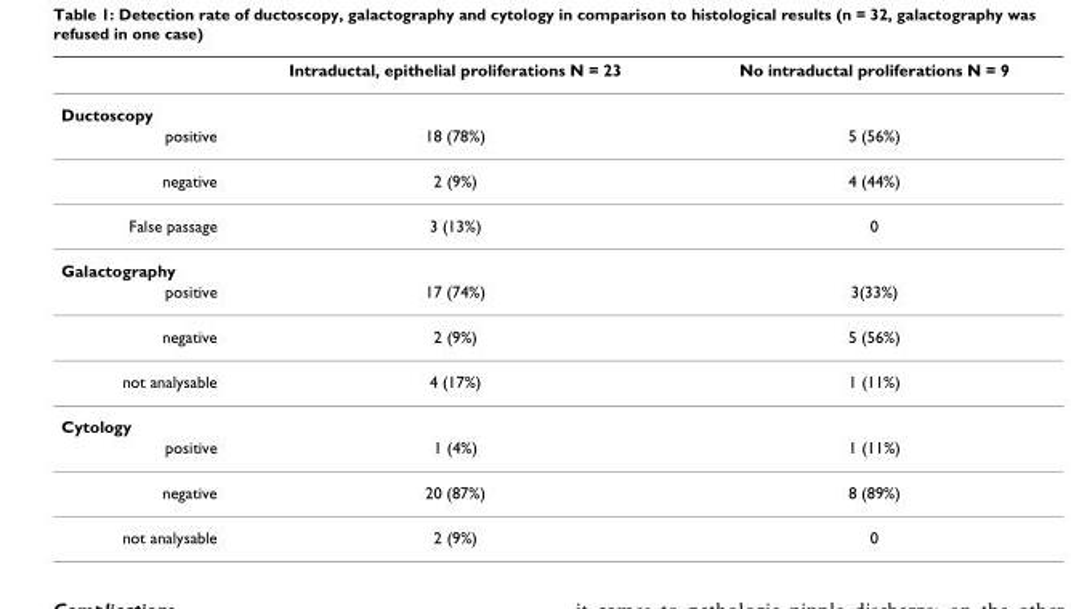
<table><thead><tr><td></td><td>Intraductal, epithelial proliferations N = 23</td><td>No intraductal proliferations N = 9</td></tr></thead><tbody><tr><td colspan="3">Ductoscopy</td></tr><tr><td>positive</td><td>18 (78%)</td><td>5 (56%)</td></tr><tr><td>negative</td><td>2 (9%)</td><td>4 (44%)</td></tr><tr><td>False passage</td><td>3 (13%)</td><td>0</td></tr><tr><td colspan="3">Galactography</td></tr><tr><td>positive</td><td>17 (74%)</td><td>3(33%)</td></tr><tr><td>negative</td><td>2 (9%)</td><td>5 (56%)</td></tr><tr><td>not analysable</td><td>4 (17%)</td><td>1 (11%)</td></tr><tr><td colspan="3">Cytology</td></tr><tr><td>positive</td><td>1 (4%)</td><td>1 (11%)</td></tr><tr><td>negative</td><td>20 (87%)</td><td>8 (89%)</td></tr><tr><td>not analysable</td><td>2 (9%)</td><td>0</td></tr></tbody></table>